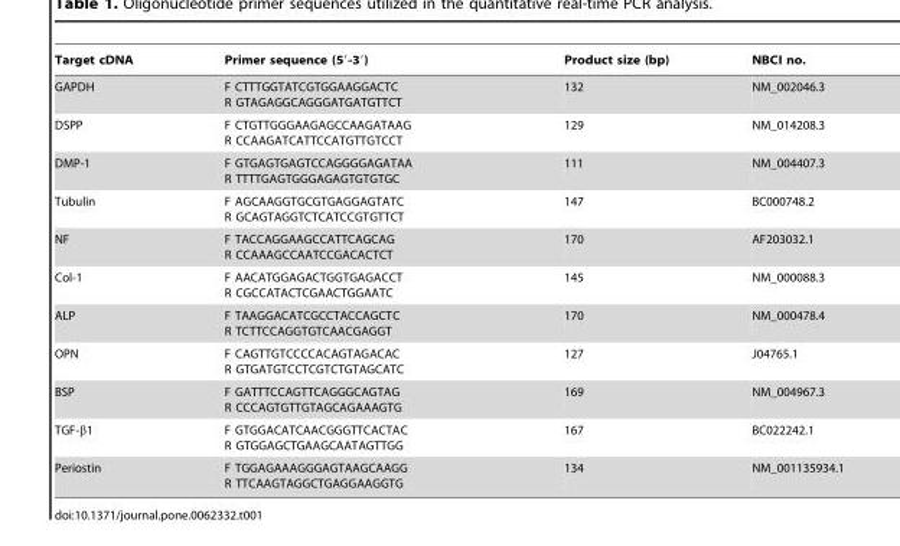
<table><thead><tr><td>Target cDNA</td><td>Primer sequence (5′-3′)</td><td>Product size (bp)</td><td>NBCI no.</td></tr></thead><tbody><tr><td>GAPDH</td><td>F CTTTGGTATCGTGGAAGGACTC R GTAGAGGCAGGGATGATGTTCT</td><td>132</td><td>NM_002046.3</td></tr><tr><td>DSPP</td><td>F CTGTTGGGAAGAGCCAAGATAAG R CCAAGATCATTCCATGTTGTCCT</td><td>129</td><td>NM_014208.3</td></tr><tr><td>DMP-1</td><td>F GTGAGTGAGTCCAGGGGAGATAA R TTTTGAGTGGGAGAGTGTGTGC</td><td>111</td><td>NM_004407.3</td></tr><tr><td>Tubulin</td><td>F AGCAAGGTGCGTGAGGAGTATC R GCAGTAGGTCTCATCCGTGTTCT</td><td>147</td><td>BC000748.2</td></tr><tr><td>NF</td><td>F TACCAGGAAGCCATTCAGCAG R CCAAAGCCAATCCGACACTCT</td><td>170</td><td>AF203032.1</td></tr><tr><td>Col-1</td><td>F AACATGGAGACTGGTGAGACCT R CGCCATACTCGAACTGGAATC</td><td>145</td><td>NM_000088.3</td></tr><tr><td>ALP</td><td>F TAAGGACATCGCCTACCAGCTC R TCTTCCAGGTGTCAACGAGGT</td><td>170</td><td>NM_000478.4</td></tr><tr><td>OPN</td><td>F CAGTTGTCCCCACAGTAGACAC R GTGATGTCCTCGTCTGTAGCATC</td><td>127</td><td>J04765.1</td></tr><tr><td>BSP</td><td>F GATTTCCAGTTCAGGGCAGTAG R CCCAGTGTTGTAGCAGAAAGTG</td><td>169</td><td>NM_004967.3</td></tr><tr><td>TGF-β1</td><td>F GTGGACATCAACGGGTTCACTAC R GTGGAGCTGAAGCAATAGTTGG</td><td>167</td><td>BC022242.1</td></tr><tr><td>Periostin</td><td>F TGGAGAAAGGGAGTAAGCAAGG R TTCAAGTAGGCTGAGGAAGGTG</td><td>134</td><td>NM_001135934.1</td></tr></tbody></table>